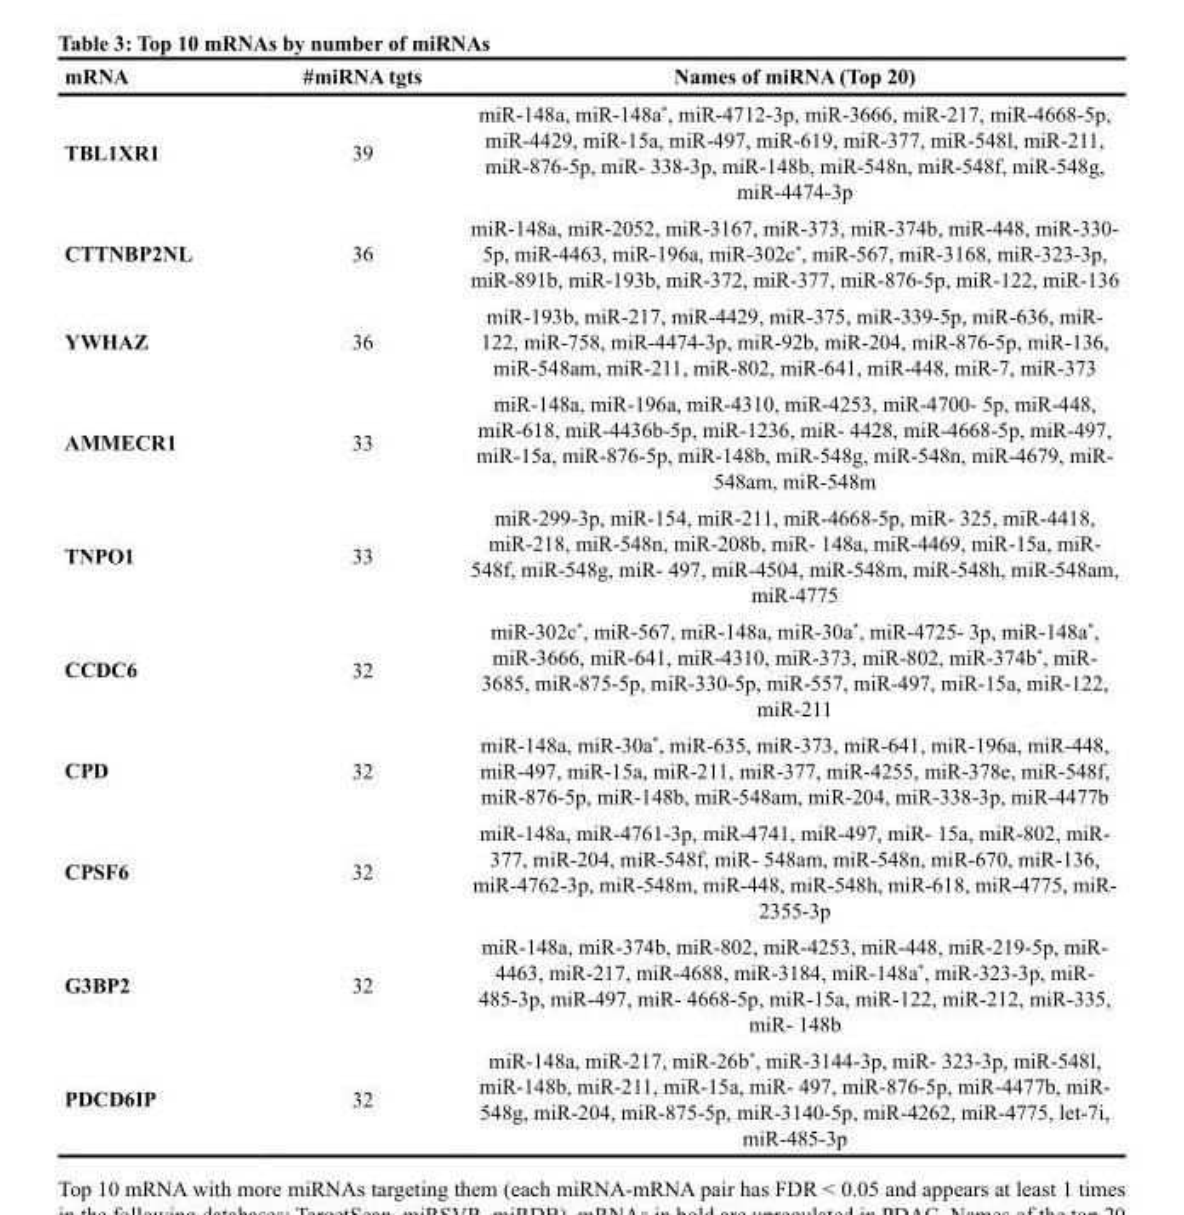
<table><thead><tr><td>mRNA</td><td>#miRNA tgts</td><td>Names of miRNA (Top 20)</td></tr></thead><tbody><tr><td>TBL1XR1</td><td>39</td><td>miR-148a, miR-148a*, miR-4712-3p, miR-3666, miR-217, miR-4668-5p, miR-4429, miR-15a, miR-497, miR-619, miR-377, miR-548l, miR-211, miR-876-5p, miR- 338-3p, miR-148b, miR-548n, miR-548f, miR-548g, miR-4474-3p</td></tr><tr><td>CTTNBP2NL</td><td>36</td><td>miR-148a, miR-2052, miR-3167, miR-373, miR-374b, miR-448, miR-330- 5p, miR-4463, miR-196a, miR-302c*, miR-567, miR-3168, miR-323-3p, miR-891b, miR-193b, miR-372, miR-377, miR-876-5p, miR-122, miR-136</td></tr><tr><td>YWHAZ</td><td>36</td><td>miR-193b, miR-217, miR-4429, miR-375, miR-339-5p, miR-636, miR- 122, miR-758, miR-4474-3p, miR-92b, miR-204, miR-876-5p, miR-136, miR-548am, miR-211, miR-802, miR-641, miR-448, miR-7, miR-373</td></tr><tr><td>AMMECR1</td><td>33</td><td>miR-148a, miR-196a, miR-4310, miR-4253, miR-4700- 5p, miR-448, miR-618, miR-4436b-5p, miR-1236, miR- 4428, miR-4668-5p, miR-497, miR-15a, miR-876-5p, miR-148b, miR-548g, miR-548n, miR-4679, miR- 548am, miR-548m</td></tr><tr><td>TNPO1</td><td>33</td><td>miR-299-3p, miR-154, miR-211, miR-4668-5p, miR- 325, miR-4418, miR-218, miR-548n, miR-208b, miR- 148a, miR-4469, miR-15a, miR- 548f, miR-548g, miR- 497, miR-4504, miR-548m, miR-548h, miR-548am, miR-4775</td></tr><tr><td>CCDC6</td><td>32</td><td>miR-302c*, miR-567, miR-148a, miR-30a*, miR-4725- 3p, miR-148a*, miR-3666, miR-641, miR-4310, miR-373, miR-802, miR-374b*, miR- 3685, miR-875-5p, miR-330-5p, miR-557, miR-497, miR-15a, miR-122, miR-211</td></tr><tr><td>CPD</td><td>32</td><td>miR-148a, miR-30a*, miR-635, miR-373, miR-641, miR-196a, miR-448, miR-497, miR-15a, miR-211, miR-377, miR-4255, miR-378e, miR-548f, miR-876-5p, miR-148b, miR-548am, miR-204, miR-338-3p, miR-4477b</td></tr><tr><td>CPSF6</td><td>32</td><td>miR-148a, miR-4761-3p, miR-4741, miR-497, miR- 15a, miR-802, miR- 377, miR-204, miR-548f, miR- 548am, miR-548n, miR-670, miR-136, miR-4762-3p, miR-548m, miR-448, miR-548h, miR-618, miR-4775, miR- 2355-3p</td></tr><tr><td>G3BP2</td><td>32</td><td>miR-148a, miR-374b, miR-802, miR-4253, miR-448, miR-219-5p, miR- 4463, miR-217, miR-4688, miR-3184, miR-148a*, miR-323-3p, miR- 485-3p, miR-497, miR- 4668-5p, miR-15a, miR-122, miR-212, miR-335, miR- 148b</td></tr><tr><td>PDCD6IP</td><td>32</td><td>miR-148a, miR-217, miR-26b*, miR-3144-3p, miR- 323-3p, miR-548l, miR-148b, miR-211, miR-15a, miR- 497, miR-876-5p, miR-4477b, miR- 548g, miR-204, miR-875-5p, miR-3140-5p, miR-4262, miR-4775, let-7i, miR-485-3p</td></tr></tbody></table>